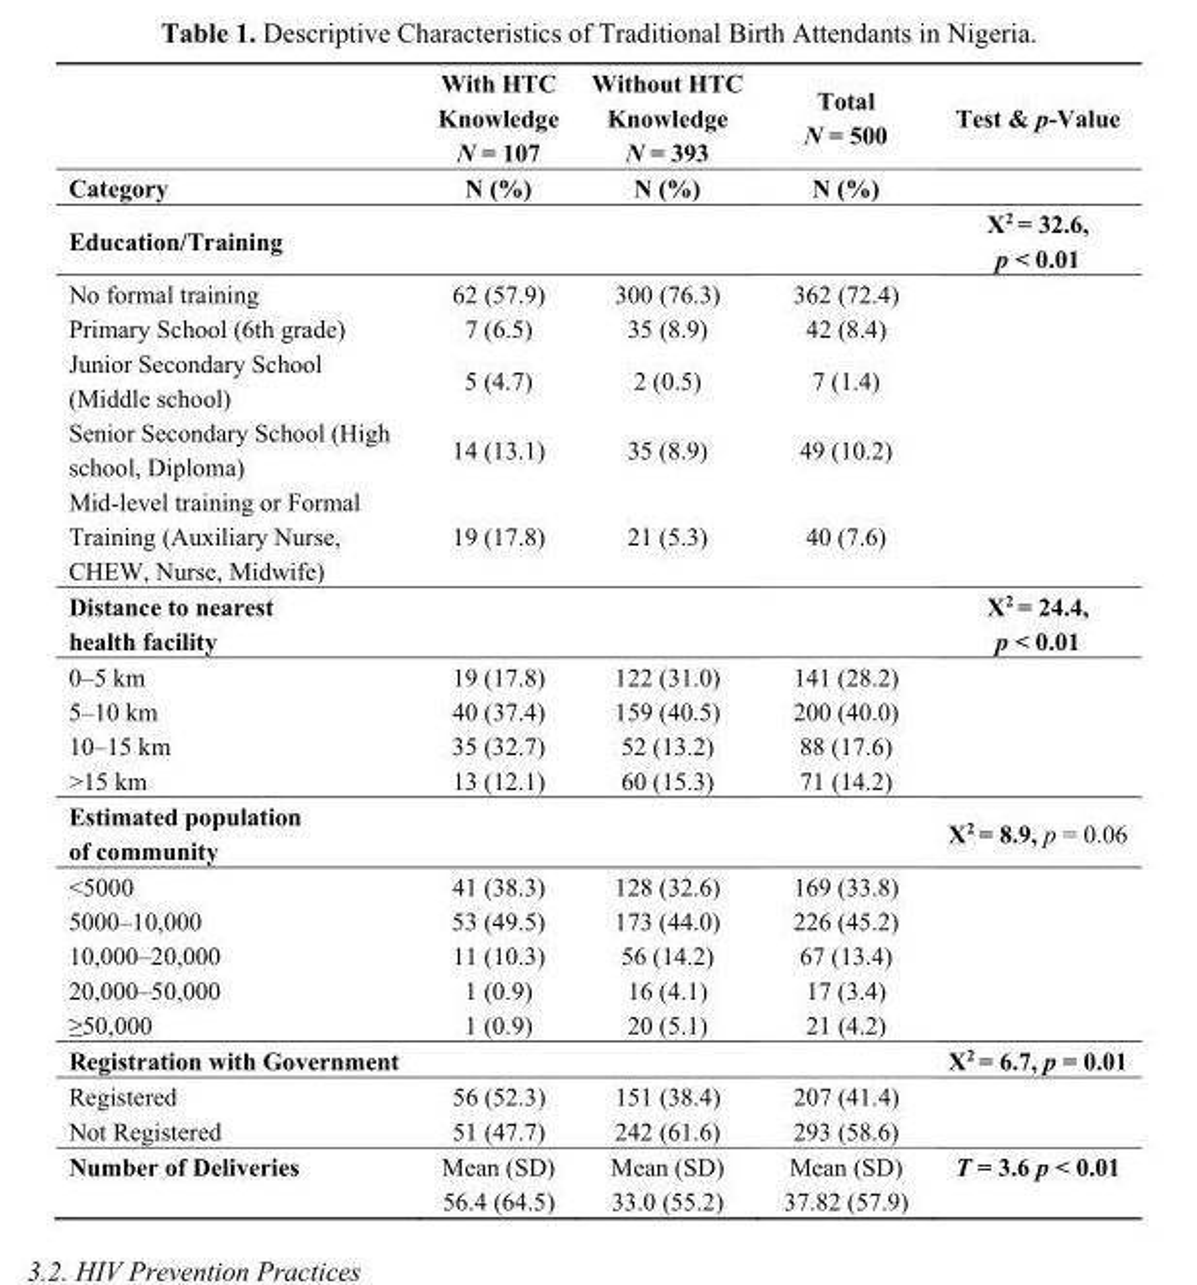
<table><thead><tr><td rowspan="2">Category</td><td rowspan="2">With HTC Knowledge N = 107 N (%)</td><td rowspan="2">Without HTC Knowledge N = 393 N (%)</td><td rowspan="2">Total N = 500 N (%)</td><td rowspan="2">Test &amp; p-Value</td></tr><tr></tr></thead><tbody><tr><td>Education/Training</td><td></td><td></td><td></td><td>X<sup>2</sup> = 32.6, p &lt; 0.01</td></tr><tr><td>No formal training</td><td>62 (57.9)</td><td>300 (76.3)</td><td>362 (72.4)</td><td></td></tr><tr><td>Primary School (6th grade)</td><td>7 (6.5)</td><td>35 (8.9)</td><td>42 (8.4)</td><td></td></tr><tr><td>Junior Secondary School (Middle school)</td><td>5 (4.7)</td><td>2 (0.5)</td><td>7 (1.4)</td><td></td></tr><tr><td>Senior Secondary School (High school, Diploma)</td><td>14 (13.1)</td><td>35 (8.9)</td><td>49 (10.2)</td><td></td></tr><tr><td>Mid-level training or Formal Training (Auxiliary Nurse, CHEW, Nurse, Midwife)</td><td>19 (17.8)</td><td>21 (5.3)</td><td>40 (7.6)</td><td></td></tr><tr><td>Distance to nearest health facility</td><td></td><td></td><td></td><td>X<sup>2</sup> = 24.4, p &lt; 0.01</td></tr><tr><td>0–5 km</td><td>19 (17.8)</td><td>122 (31.0)</td><td>141 (28.2)</td><td></td></tr><tr><td>5–10 km</td><td>40 (37.4)</td><td>159 (40.5)</td><td>200 (40.0)</td><td></td></tr><tr><td>10–15 km</td><td>35 (32.7)</td><td>52 (13.2)</td><td>88 (17.6)</td><td></td></tr><tr><td>&gt;15 km</td><td>13 (12.1)</td><td>60 (15.3)</td><td>71 (14.2)</td><td></td></tr><tr><td>Estimated population of community</td><td></td><td></td><td></td><td>X<sup>2</sup> = 8.9, p = 0.06</td></tr><tr><td>&lt;5000</td><td>41 (38.3)</td><td>128 (32.6)</td><td>169 (33.8)</td><td></td></tr><tr><td>5000‒10,000</td><td>53 (49.5)</td><td>173 (44.0)</td><td>226 (45.2)</td><td></td></tr><tr><td>10,000‒20,000</td><td>11 (10.3)</td><td>56 (14.2)</td><td>67 (13.4)</td><td></td></tr><tr><td>20,000‒50,000</td><td>1 (0.9)</td><td>16 (4.1)</td><td>17 (3.4)</td><td></td></tr><tr><td>≥50,000</td><td>1 (0.9)</td><td>20 (5.1)</td><td>21 (4.2)</td><td></td></tr><tr><td>Registration with Government</td><td></td><td></td><td></td><td>X<sup>2</sup> = 6.7, p = 0.01</td></tr><tr><td>Registered</td><td>56 (52.3)</td><td>151 (38.4)</td><td>207 (41.4)</td><td></td></tr><tr><td>Not Registered</td><td>51 (47.7)</td><td>242 (61.6)</td><td>293 (58.6)</td><td></td></tr><tr><td rowspan="2">Number of Deliveries</td><td>Mean (SD)</td><td>Mean (SD)</td><td>Mean (SD)</td><td>T = 3.6 p &lt; 0.01</td></tr><tr><td>56.4 (64.5)</td><td>33.0 (55.2)</td><td>37.82 (57.9)</td><td></td></tr></tbody></table>